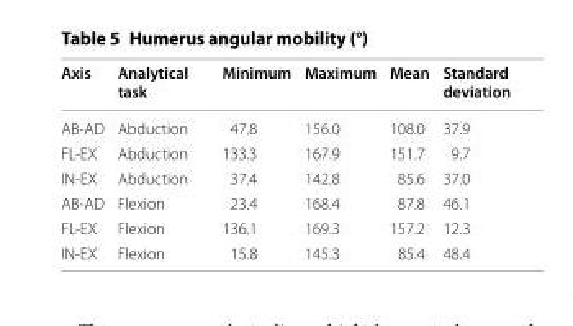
<table><thead><tr><td>Axis</td><td>Analytical task</td><td>Minimum</td><td>Maximum</td><td>Mean</td><td>Standard deviation</td></tr></thead><tbody><tr><td>AB‑AD</td><td>Abduction</td><td>47.8</td><td>156.0</td><td>108.0</td><td>37.9</td></tr><tr><td>FL‑EX</td><td>Abduction</td><td>133.3</td><td>167.9</td><td>151.7</td><td>9.7</td></tr><tr><td>IN‑EX</td><td>Abduction</td><td>37.4</td><td>142.8</td><td>85.6</td><td>37.0</td></tr><tr><td>AB‑AD</td><td>Flexion</td><td>23.4</td><td>168.4</td><td>87.8</td><td>46.1</td></tr><tr><td>FL‑EX</td><td>Flexion</td><td>136.1</td><td>169.3</td><td>157.2</td><td>12.3</td></tr><tr><td>IN‑EX</td><td>Flexion</td><td>15.8</td><td>145.3</td><td>85.4</td><td>48.4</td></tr></tbody></table>